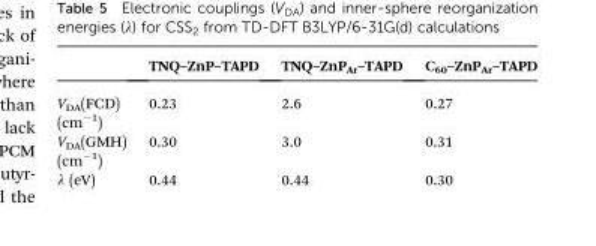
<table><thead><tr><td></td><td>TNQ–ZnP–TAPD</td><td>TNQ–ZnP<sub>Ar</sub>–TAPD</td><td>C<sub>60</sub>–ZnP<sub>Ar</sub>–TAPD</td></tr></thead><tbody><tr><td>V<sub>DA</sub>(FCD) (cm<sup>–1</sup>)</td><td>0.23</td><td>2.6</td><td>0.27</td></tr><tr><td>V<sub>DA</sub>(GMH) (cm<sup>–1</sup>)</td><td>0.30</td><td>3.0</td><td>0.31</td></tr><tr><td>λ (eV)</td><td>0.44</td><td>0.44</td><td>0.30</td></tr></tbody></table>